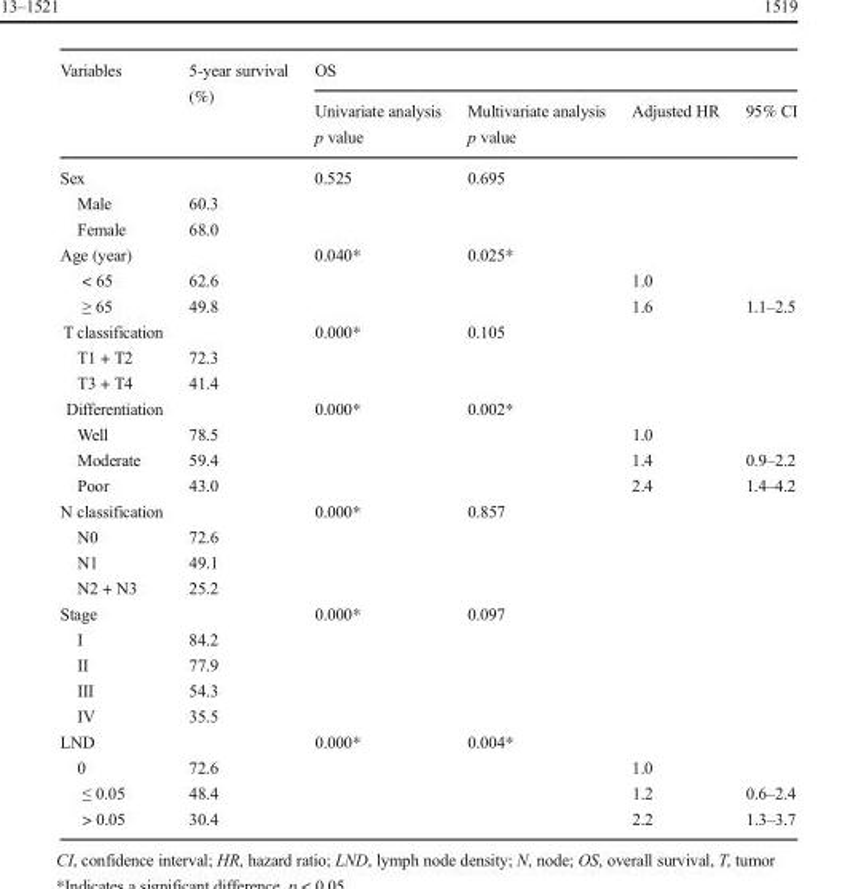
<table><thead><tr><td rowspan="2">Variables</td><td rowspan="2">5-year survival (%)</td><td colspan="4">OS</td></tr><tr><td>Univariate analysis p value</td><td>Multivariate analysis p value</td><td>Adjusted HR</td><td>95% CI</td></tr></thead><tbody><tr><td>Sex</td><td></td><td>0.525</td><td>0.695</td><td></td><td></td></tr><tr><td>Male</td><td>60.3</td><td></td><td></td><td></td><td></td></tr><tr><td>Female</td><td>68.0</td><td></td><td></td><td></td><td></td></tr><tr><td>Age (year)</td><td></td><td>0.040*</td><td>0.025*</td><td></td><td></td></tr><tr><td>&lt; 65</td><td>62.6</td><td></td><td></td><td>1.0</td><td></td></tr><tr><td>≥ 65</td><td>49.8</td><td></td><td></td><td>1.6</td><td>1.1–2.5</td></tr><tr><td>T classification</td><td></td><td>0.000*</td><td>0.105</td><td></td><td></td></tr><tr><td>T1 + T2</td><td>72.3</td><td></td><td></td><td></td><td></td></tr><tr><td>T3 + T4</td><td>41.4</td><td></td><td></td><td></td><td></td></tr><tr><td>Differentiation</td><td></td><td>0.000*</td><td>0.002*</td><td></td><td></td></tr><tr><td>Well</td><td>78.5</td><td></td><td></td><td>1.0</td><td></td></tr><tr><td>Moderate</td><td>59.4</td><td></td><td></td><td>1.4</td><td>0.9–2.2</td></tr><tr><td>Poor</td><td>43.0</td><td></td><td></td><td>2.4</td><td>1.4–4.2</td></tr><tr><td>N classification</td><td></td><td>0.000*</td><td>0.857</td><td></td><td></td></tr><tr><td>N0</td><td>72.6</td><td></td><td></td><td></td><td></td></tr><tr><td>N1</td><td>49.1</td><td></td><td></td><td></td><td></td></tr><tr><td>N2 + N3</td><td>25.2</td><td></td><td></td><td></td><td></td></tr><tr><td>Stage</td><td></td><td>0.000*</td><td>0.097</td><td></td><td></td></tr><tr><td>I</td><td>84.2</td><td></td><td></td><td></td><td></td></tr><tr><td>II</td><td>77.9</td><td></td><td></td><td></td><td></td></tr><tr><td>III</td><td>54.3</td><td></td><td></td><td></td><td></td></tr><tr><td>IV</td><td>35.5</td><td></td><td></td><td></td><td></td></tr><tr><td>LND</td><td></td><td>0.000*</td><td>0.004*</td><td></td><td></td></tr><tr><td>0</td><td>72.6</td><td></td><td></td><td>1.0</td><td></td></tr><tr><td>≤ 0.05</td><td>48.4</td><td></td><td></td><td>1.2</td><td>0.6–2.4</td></tr><tr><td>&gt; 0.05</td><td>30.4</td><td></td><td></td><td>2.2</td><td>1.3–3.7</td></tr></tbody></table>